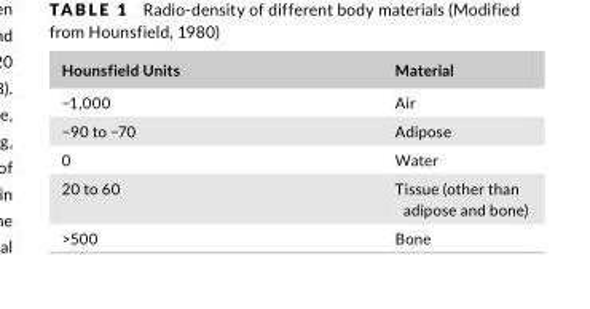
<table><thead><tr><td>Hounsfield Units</td><td>Material</td></tr></thead><tbody><tr><td>−1,000</td><td>Air</td></tr><tr><td>−90 to −70</td><td>Adipose</td></tr><tr><td>0</td><td>Water</td></tr><tr><td>20 to 60</td><td>Tissue (other than adipose and bone)</td></tr><tr><td>&gt;500</td><td>Bone</td></tr></tbody></table>